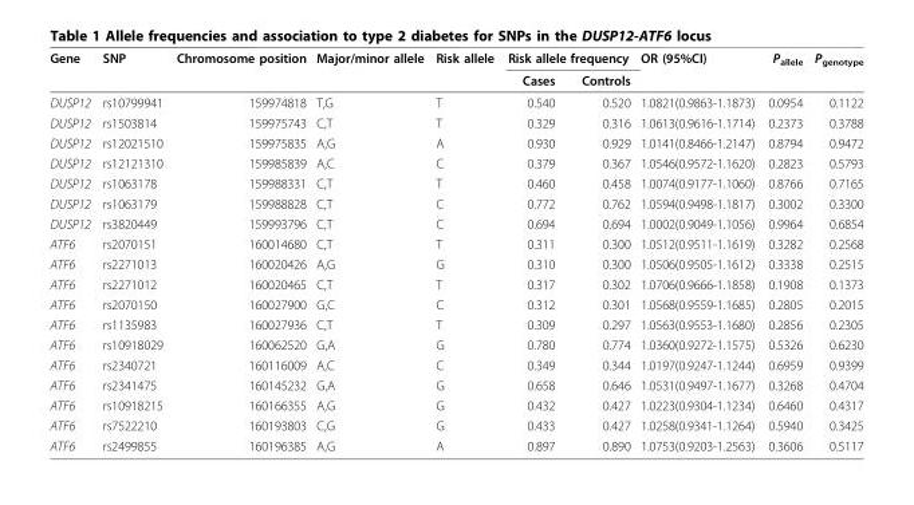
<table><thead><tr><td rowspan="2">Gene</td><td rowspan="2">SNP</td><td rowspan="2">Chromosome position</td><td rowspan="2">Major/minor allele</td><td rowspan="2">Risk allele</td><td colspan="2">Risk allele frequency</td><td rowspan="2">OR (95%CI)</td><td rowspan="2">P<sub>allele</sub></td><td rowspan="2">P<sub>genotype</sub></td></tr><tr><td>Cases</td><td>Controls</td></tr></thead><tbody><tr><td>DUSP12</td><td>rs10799941</td><td>159974818</td><td>T,G</td><td>T</td><td>0.540</td><td>0.520</td><td>1.0821(0.9863-1.1873)</td><td>0.0954</td><td>0.1122</td></tr><tr><td>DUSP12</td><td>rs1503814</td><td>159975743</td><td>C,T</td><td>T</td><td>0.329</td><td>0.316</td><td>1.0613(0.9616-1.1714)</td><td>0.2373</td><td>0.3788</td></tr><tr><td>DUSP12</td><td>rs12021510</td><td>159975835</td><td>A,G</td><td>A</td><td>0.930</td><td>0.929</td><td>1.0141(0.8466-1.2147)</td><td>0.8794</td><td>0.9472</td></tr><tr><td>DUSP12</td><td>rs12121310</td><td>159985839</td><td>A,C</td><td>C</td><td>0.379</td><td>0.367</td><td>1.0546(0.9572-1.1620)</td><td>0.2823</td><td>0.5793</td></tr><tr><td>DUSP12</td><td>rs1063178</td><td>159988331</td><td>C,T</td><td>T</td><td>0.460</td><td>0.458</td><td>1.0074(0.9177-1.1060)</td><td>0.8766</td><td>0.7165</td></tr><tr><td>DUSP12</td><td>rs1063179</td><td>159988828</td><td>C,T</td><td>C</td><td>0.772</td><td>0.762</td><td>1.0594(0.9498-1.1817)</td><td>0.3002</td><td>0.3300</td></tr><tr><td>DUSP12</td><td>rs3820449</td><td>159993796</td><td>C,T</td><td>C</td><td>0.694</td><td>0.694</td><td>1.0002(0.9049-1.1056)</td><td>0.9964</td><td>0.6854</td></tr><tr><td>ATF6</td><td>rs2070151</td><td>160014680</td><td>C,T</td><td>T</td><td>0.311</td><td>0.300</td><td>1.0512(0.9511-1.1619)</td><td>0.3282</td><td>0.2568</td></tr><tr><td>ATF6</td><td>rs2271013</td><td>160020426</td><td>A,G</td><td>G</td><td>0.310</td><td>0.300</td><td>1.0506(0.9505-1.1612)</td><td>0.3338</td><td>0.2515</td></tr><tr><td>ATF6</td><td>rs2271012</td><td>160020465</td><td>C,T</td><td>T</td><td>0.317</td><td>0.302</td><td>1.0706(0.9666-1.1858)</td><td>0.1908</td><td>0.1373</td></tr><tr><td>ATF6</td><td>rs2070150</td><td>160027900</td><td>G,C</td><td>C</td><td>0.312</td><td>0.301</td><td>1.0568(0.9559-1.1685)</td><td>0.2805</td><td>0.2015</td></tr><tr><td>ATF6</td><td>rs1135983</td><td>160027936</td><td>C,T</td><td>T</td><td>0.309</td><td>0.297</td><td>1.0563(0.9553-1.1680)</td><td>0.2856</td><td>0.2305</td></tr><tr><td>ATF6</td><td>rs10918029</td><td>160062520</td><td>G,A</td><td>G</td><td>0.780</td><td>0.774</td><td>1.0360(0.9272-1.1575)</td><td>0.5326</td><td>0.6230</td></tr><tr><td>ATF6</td><td>rs2340721</td><td>160116009</td><td>A,C</td><td>C</td><td>0.349</td><td>0.344</td><td>1.0197(0.9247-1.1244)</td><td>0.6959</td><td>0.9399</td></tr><tr><td>ATF6</td><td>rs2341475</td><td>160145232</td><td>G,A</td><td>G</td><td>0.658</td><td>0.646</td><td>1.0531(0.9497-1.1677)</td><td>0.3268</td><td>0.4704</td></tr><tr><td>ATF6</td><td>rs10918215</td><td>160166355</td><td>A,G</td><td>G</td><td>0.432</td><td>0.427</td><td>1.0223(0.9304-1.1234)</td><td>0.6460</td><td>0.4317</td></tr><tr><td>ATF6</td><td>rs7522210</td><td>160193803</td><td>C,G</td><td>G</td><td>0.433</td><td>0.427</td><td>1.0258(0.9341-1.1264)</td><td>0.5940</td><td>0.3425</td></tr><tr><td>ATF6</td><td>rs2499855</td><td>160196385</td><td>A,G</td><td>A</td><td>0.897</td><td>0.890</td><td>1.0753(0.9203-1.2563)</td><td>0.3606</td><td>0.5117</td></tr></tbody></table>